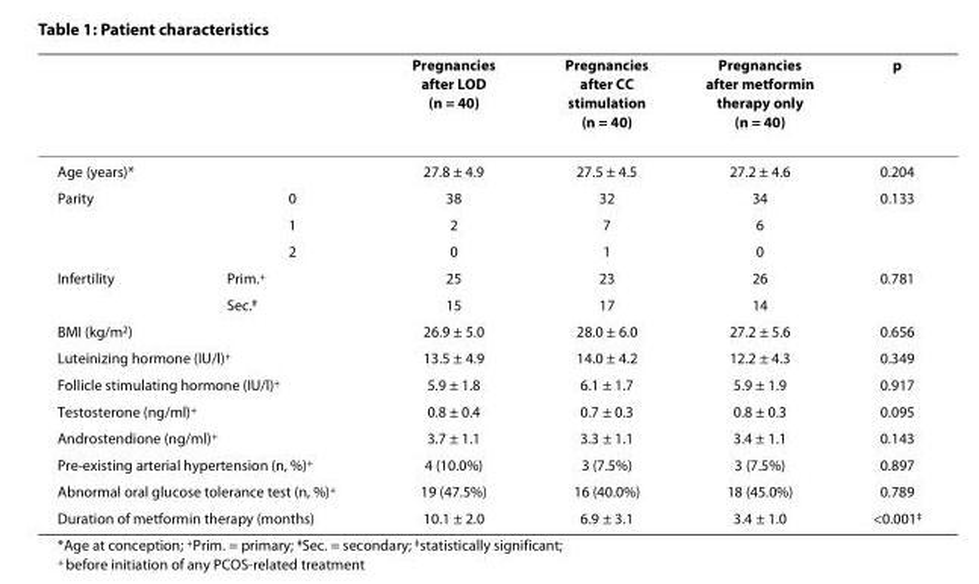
<table><thead><tr><td></td><td></td><td>Pregnancies after LOD (n = 40)</td><td>Pregnancies after CC stimulation (n = 40)</td><td>Pregnancies after metformin therapy only (n = 40)</td><td>p</td></tr></thead><tbody><tr><td>Age (years)*</td><td></td><td>27.8 ± 4.9</td><td>27.5 ± 4.5</td><td>27.2 ± 4.6</td><td>0.204</td></tr><tr><td rowspan="3">Parity</td><td>0</td><td>38</td><td>32</td><td>34</td><td>0.133</td></tr><tr><td>1</td><td>2</td><td>7</td><td>6</td><td></td></tr><tr><td>2</td><td>0</td><td>1</td><td>0</td><td></td></tr><tr><td rowspan="2">Infertility</td><td>Prim.<sup>+</sup></td><td>25</td><td>23</td><td>26</td><td>0.781</td></tr><tr><td>Sec.<sup>#</sup></td><td>15</td><td>17</td><td>14</td><td></td></tr><tr><td colspan="2">BMI (kg/m<sup>2</sup>)</td><td>26.9 ± 5.0</td><td>28.0 ± 6.0</td><td>27.2 ± 5.6</td><td>0.656</td></tr><tr><td colspan="2">Luteinizing hormone (IU/l)<sup>+</sup></td><td>13.5 ± 4.9</td><td>14.0 ± 4.2</td><td>12.2 ± 4.3</td><td>0.349</td></tr><tr><td colspan="2">Follicle stimulating hormone (IU/l)<sup>+</sup></td><td>5.9 ± 1.8</td><td>6.1 ± 1.7</td><td>5.9 ± 1.9</td><td>0.917</td></tr><tr><td colspan="2">Testosterone (ng/ml)<sup>+</sup></td><td>0.8 ± 0.4</td><td>0.7 ± 0.3</td><td>0.8 ± 0.3</td><td>0.095</td></tr><tr><td colspan="2">Androstendione (ng/ml)<sup>+</sup></td><td>3.7 ± 1.1</td><td>3.3 ± 1.1</td><td>3.4 ± 1.1</td><td>0.143</td></tr><tr><td colspan="2">Pre-existing arterial hypertension (n, %)<sup>+</sup></td><td>4 (10.0%)</td><td>3 (7.5%)</td><td>3 (7.5%)</td><td>0.897</td></tr><tr><td colspan="2">Abnormal oral glucose tolerance test (n, %)<sup>+</sup></td><td>19 (47.5%)</td><td>16 (40.0%)</td><td>18 (45.0%)</td><td>0.789</td></tr><tr><td colspan="2">Duration of metformin therapy (months)</td><td>10.1 ± 2.0</td><td>6.9 ± 3.1</td><td>3.4 ± 1.0</td><td>&lt;0.001<sup>‡</sup></td></tr></tbody></table>